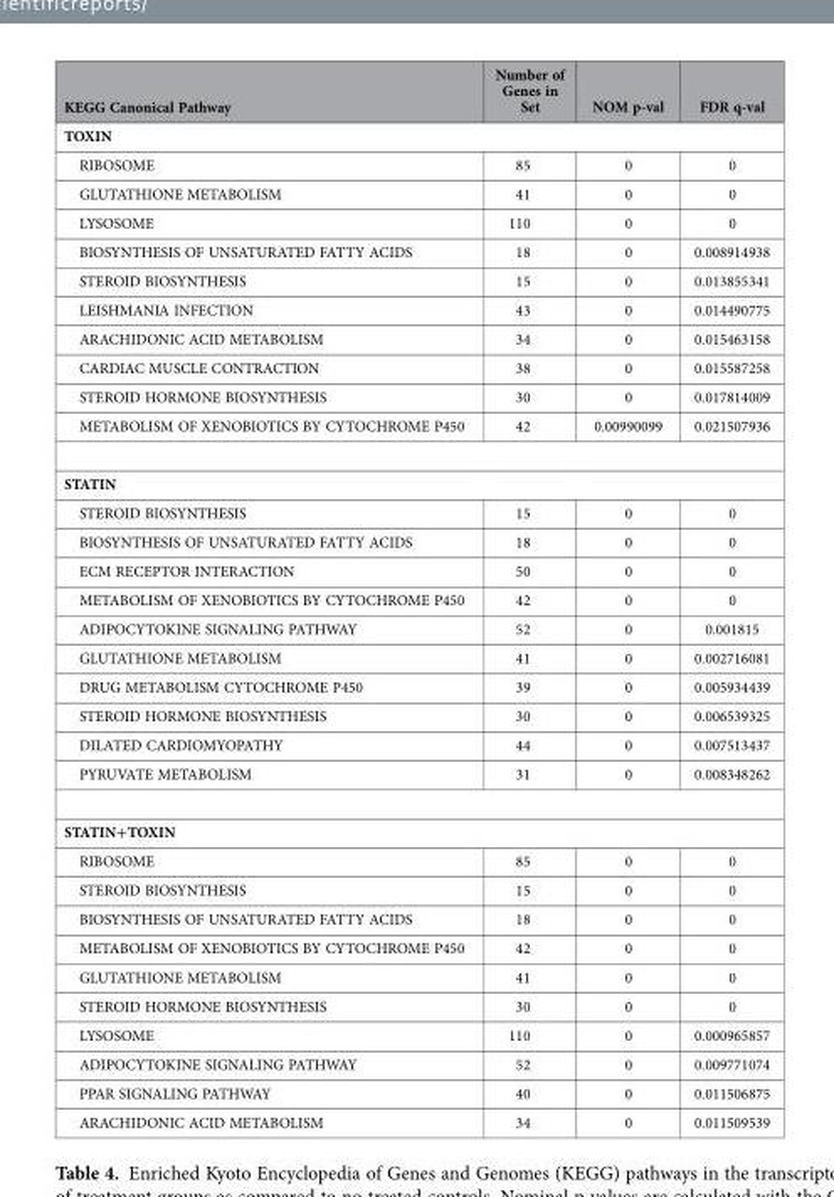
<table><thead><tr><td>KEGG Canonical Pathway</td><td>Number of Genes in Set</td><td>NOM p-val</td><td>FDR q-val</td></tr></thead><tbody><tr><td colspan="4">TOXIN</td></tr><tr><td>RIBOSOME</td><td>85</td><td>0</td><td>0</td></tr><tr><td>GLUTATHIONE METABOLISM</td><td>41</td><td>0</td><td>0</td></tr><tr><td>LYSOSOME</td><td>110</td><td>0</td><td>0</td></tr><tr><td>BIOSYNTHESIS OF UNSATURATED FATTY ACIDS</td><td>18</td><td>0</td><td>0.008914938</td></tr><tr><td>STEROID BIOSYNTHESIS</td><td>15</td><td>0</td><td>0.013855341</td></tr><tr><td>LEISHMANIA INFECTION</td><td>43</td><td>0</td><td>0.014490775</td></tr><tr><td>ARACHIDONIC ACID METABOLISM</td><td>34</td><td>0</td><td>0.015463158</td></tr><tr><td>CARDIAC MUSCLE CONTRACTION</td><td>38</td><td>0</td><td>0.015587258</td></tr><tr><td>STEROID HORMONE BIOSYNTHESIS</td><td>30</td><td>0</td><td>0.017814009</td></tr><tr><td>METABOLISM OF XENOBIOTICS BY CYTOCHROME P450</td><td>42</td><td>0.00990099</td><td>0.021507936</td></tr><tr><td colspan="4">STATIN</td></tr><tr><td>STEROID BIOSYNTHESIS</td><td>15</td><td>0</td><td>0</td></tr><tr><td>BIOSYNTHESIS OF UNSATURATED FATTY ACIDS</td><td>18</td><td>0</td><td>0</td></tr><tr><td>ECM RECEPTOR INTERACTION</td><td>50</td><td>0</td><td>0</td></tr><tr><td>METABOLISM OF XENOBIOTICS BY CYTOCHROME P450</td><td>42</td><td>0</td><td>0</td></tr><tr><td>ADIPOCYTOKINE SIGNALING PATHWAY</td><td>52</td><td>0</td><td>0.001815</td></tr><tr><td>GLUTATHIONE METABOLISM</td><td>41</td><td>0</td><td>0.002716081</td></tr><tr><td>DRUG METABOLISM CYTOCHROME P450</td><td>39</td><td>0</td><td>0.005934439</td></tr><tr><td>STEROID HORMONE BIOSYNTHESIS</td><td>30</td><td>0</td><td>0.006539325</td></tr><tr><td>DILATED CARDIOMYOPATHY</td><td>44</td><td>0</td><td>0.007513437</td></tr><tr><td>PYRUVATE METABOLISM</td><td>31</td><td>0</td><td>0.008348262</td></tr><tr><td colspan="4">STATIN+TOXIN</td></tr><tr><td>RIBOSOME</td><td>85</td><td>0</td><td>0</td></tr><tr><td>STEROID BIOSYNTHESIS</td><td>15</td><td>0</td><td>0</td></tr><tr><td>BIOSYNTHESIS OF UNSATURATED FATTY ACIDS</td><td>18</td><td>0</td><td>0</td></tr><tr><td>METABOLISM OF XENOBIOTICS BY CYTOCHROME P450</td><td>42</td><td>0</td><td>0</td></tr><tr><td>GLUTATHIONE METABOLISM</td><td>41</td><td>0</td><td>0</td></tr><tr><td>STEROID HORMONE BIOSYNTHESIS</td><td>30</td><td>0</td><td>0</td></tr><tr><td>LYSOSOME</td><td>110</td><td>0</td><td>0.000965857</td></tr><tr><td>ADIPOCYTOKINE SIGNALING PATHWAY</td><td>52</td><td>0</td><td>0.009771074</td></tr><tr><td>PPAR SIGNALING PATHWAY</td><td>40</td><td>0</td><td>0.011506875</td></tr><tr><td>ARACHIDONIC ACID METABOLISM</td><td>34</td><td>0</td><td>0.011509539</td></tr></tbody></table>